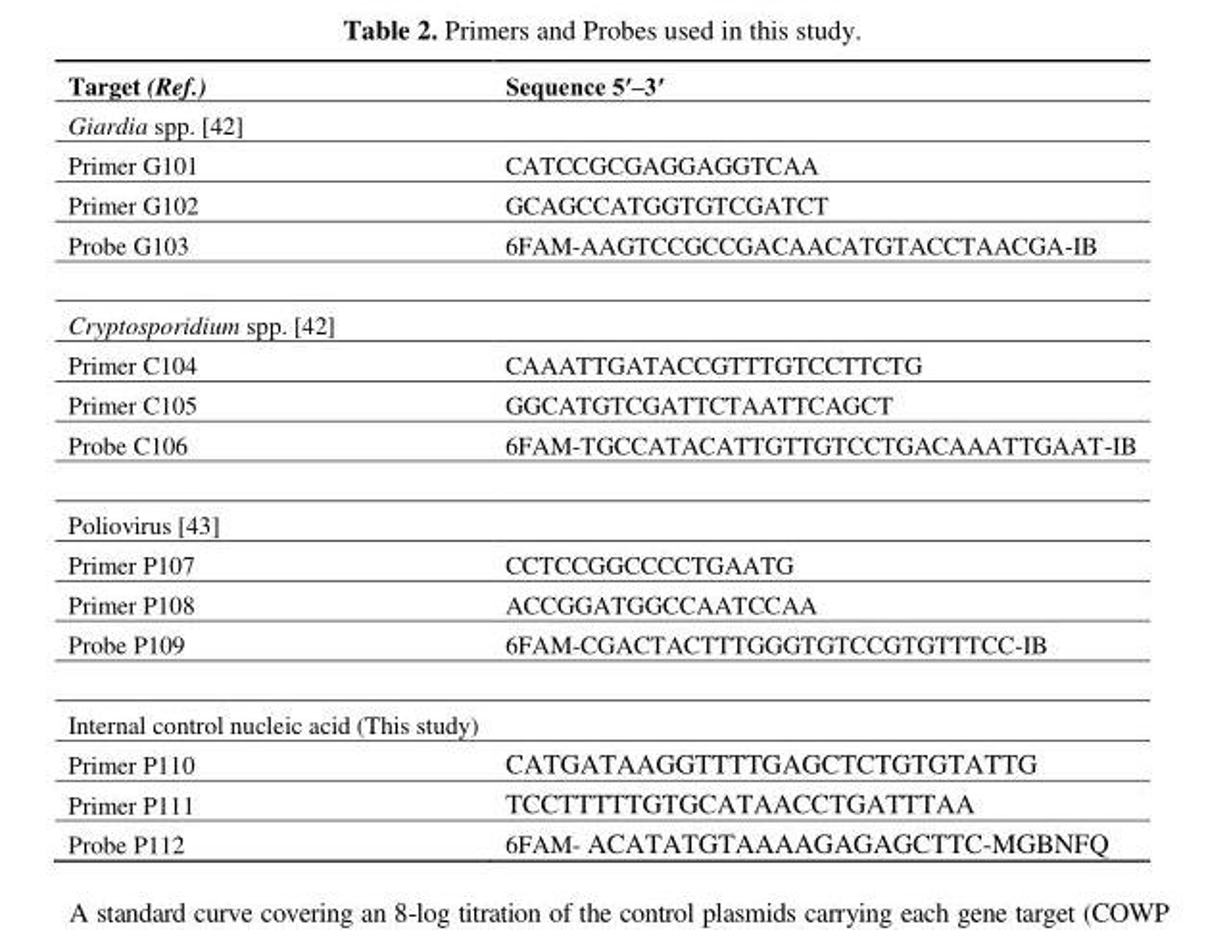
<table><thead><tr><td>Target (Ref.)</td><td>Sequence 5′–3′</td></tr></thead><tbody><tr><td colspan="2">Giardia spp. [42]</td></tr><tr><td>Primer G101</td><td>CATCCGCGAGGAGGTCAA</td></tr><tr><td>Primer G102</td><td>GCAGCCATGGTGTCGATCT</td></tr><tr><td>Probe G103</td><td>6FAM-AAGTCCGCCGACAACATGTACCTAACGA-IB</td></tr><tr><td colspan="2">Cryptosporidium spp. [42]</td></tr><tr><td>Primer C104</td><td>CAAATTGATACCGTTTGTCCTTCTG</td></tr><tr><td>Primer C105</td><td>GGCATGTCGATTCTAATTCAGCT</td></tr><tr><td>Probe C106</td><td>6FAM-TGCCATACATTGTTGTCCTGACAAATTGAAT-IB</td></tr><tr><td colspan="2">Poliovirus [43]</td></tr><tr><td>Primer P107</td><td>CCTCCGGCCCCTGAATG</td></tr><tr><td>Primer P108</td><td>ACCGGATGGCCAATCCAA</td></tr><tr><td>Probe P109</td><td>6FAM-CGACTACTTTGGGTGTCCGTGTTTCC-IB</td></tr><tr><td colspan="2">Internal control nucleic acid (This study)</td></tr><tr><td>Primer P110</td><td>CATGATAAGGTTTTGAGCTCTGTGTATTG</td></tr><tr><td>Primer P111</td><td>TCCTTTTTGTGCATAACCTGATTTAA</td></tr><tr><td>Probe P112</td><td>6FAM- ACATATGTAAAAGAGAGCTTC-MGBNFQ</td></tr></tbody></table>